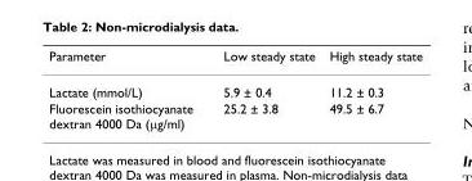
<table><thead><tr><td>Parameter</td><td>Low steady state</td><td>High steady state</td></tr></thead><tbody><tr><td>Lactate (mmol/L)</td><td>5.9 ± 0.4</td><td>11.2 ± 0.3</td></tr><tr><td>Fluorescein isothiocyanate dextran 4000 Da (µg/ml)</td><td>25.2 ± 3.8</td><td>49.5 ± 6.7</td></tr></tbody></table>